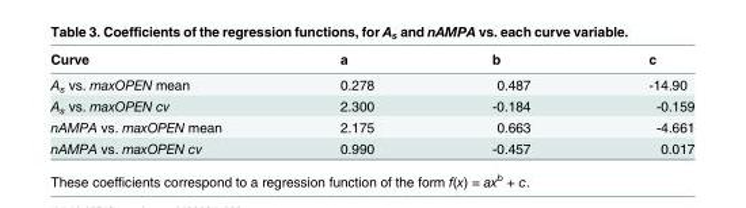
<table><thead><tr><td>Curve</td><td>a</td><td>b</td><td>c</td></tr></thead><tbody><tr><td>A<sub>s</sub> vs. maxOPEN mean</td><td>0.278</td><td>0.487</td><td>-14.90</td></tr><tr><td>A<sub>s</sub> vs. maxOPEN cv</td><td>2.300</td><td>-0.184</td><td>-0.159</td></tr><tr><td>nAMPA vs. maxOPEN mean</td><td>2.175</td><td>0.663</td><td>-4.661</td></tr><tr><td>nAMPA vs. maxOPEN cv</td><td>0.990</td><td>-0.457</td><td>0.017</td></tr></tbody></table>